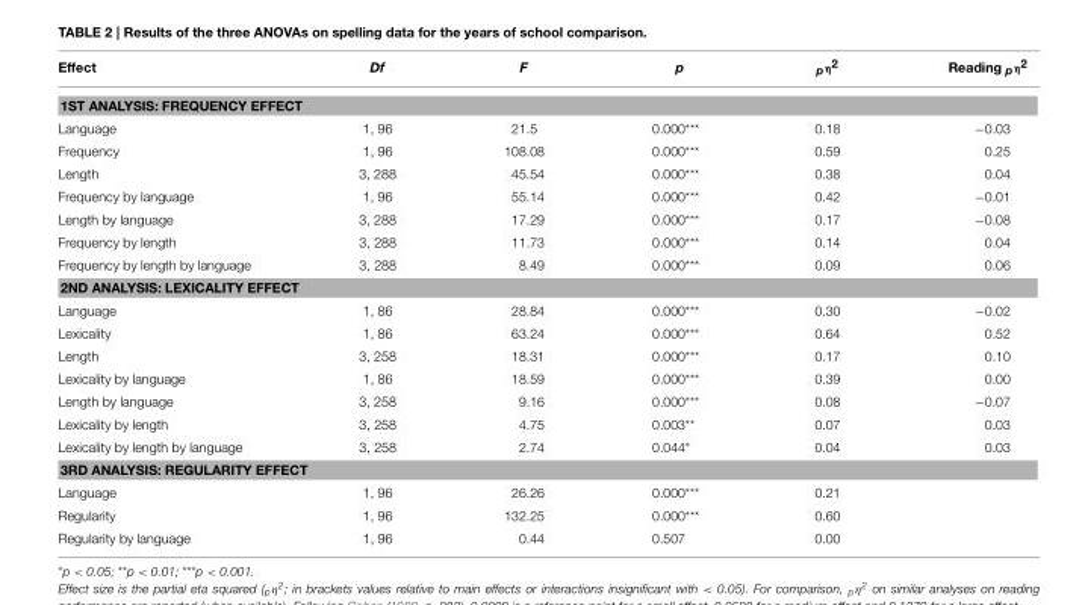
<table><thead><tr><td>Effect</td><td>Df</td><td>F</td><td>p</td><td><sub>p</sub>η<sup>2</sup></td><td>Reading <sub>p</sub>η<sup>2</sup></td></tr></thead><tbody><tr><td colspan="6">1ST ANALYSIS: FREQUENCY EFFECT</td></tr><tr><td>Language</td><td>1, 96</td><td>21.5</td><td>0.000***</td><td>0.18</td><td>−0.03</td></tr><tr><td>Frequency</td><td>1, 96</td><td>108.08</td><td>0.000***</td><td>0.59</td><td>0.25</td></tr><tr><td>Length</td><td>3, 288</td><td>45.54</td><td>0.000***</td><td>0.38</td><td>0.04</td></tr><tr><td>Frequency by language</td><td>1, 96</td><td>55.14</td><td>0.000***</td><td>0.42</td><td>−0.01</td></tr><tr><td>Length by language</td><td>3, 288</td><td>17.29</td><td>0.000***</td><td>0.17</td><td>−0.08</td></tr><tr><td>Frequency by length</td><td>3, 288</td><td>11.73</td><td>0.000***</td><td>0.14</td><td>0.04</td></tr><tr><td>Frequency by length by language</td><td>3, 288</td><td>8.49</td><td>0.000***</td><td>0.09</td><td>0.06</td></tr><tr><td colspan="6">2ND ANALYSIS: LEXICALITY EFFECT</td></tr><tr><td>Language</td><td>1, 86</td><td>28.84</td><td>0.000***</td><td>0.30</td><td>−0.02</td></tr><tr><td>Lexicality</td><td>1, 86</td><td>63.24</td><td>0.000***</td><td>0.64</td><td>0.52</td></tr><tr><td>Length</td><td>3, 258</td><td>18.31</td><td>0.000***</td><td>0.17</td><td>0.10</td></tr><tr><td>Lexicality by language</td><td>1, 86</td><td>18.59</td><td>0.000***</td><td>0.39</td><td>0.00</td></tr><tr><td>Length by language</td><td>3, 258</td><td>9.16</td><td>0.000***</td><td>0.08</td><td>−0.07</td></tr><tr><td>Lexicality by length</td><td>3, 258</td><td>4.75</td><td>0.003**</td><td>0.07</td><td>0.03</td></tr><tr><td>Lexicality by length by language</td><td>3, 258</td><td>2.74</td><td>0.044*</td><td>0.04</td><td>0.03</td></tr><tr><td colspan="6">3RD ANALYSIS: REGULARITY EFFECT</td></tr><tr><td>Language</td><td>1, 96</td><td>26.26</td><td>0.000***</td><td>0.21</td><td></td></tr><tr><td>Regularity</td><td>1, 96</td><td>132.25</td><td>0.000***</td><td>0.60</td><td></td></tr><tr><td>Regularity by language</td><td>1, 96</td><td>0.44</td><td>0.507</td><td>0.00</td><td></td></tr></tbody></table>